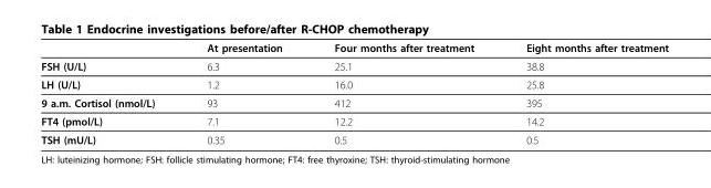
<table><thead><tr><td></td><td>At presentation</td><td>Four months after treatment</td><td>Eight months after treatment</td></tr></thead><tbody><tr><td>FSH (U/L)</td><td>6.3</td><td>25.1</td><td>38.8</td></tr><tr><td>LH (U/L)</td><td>1.2</td><td>16.0</td><td>25.8</td></tr><tr><td>9 a.m. Cortisol (nmol/L)</td><td>93</td><td>412</td><td>395</td></tr><tr><td>FT4 (pmol/L)</td><td>7.1</td><td>12.2</td><td>14.2</td></tr><tr><td>TSH (mU/L)</td><td>0.35</td><td>0.5</td><td>0.5</td></tr></tbody></table>